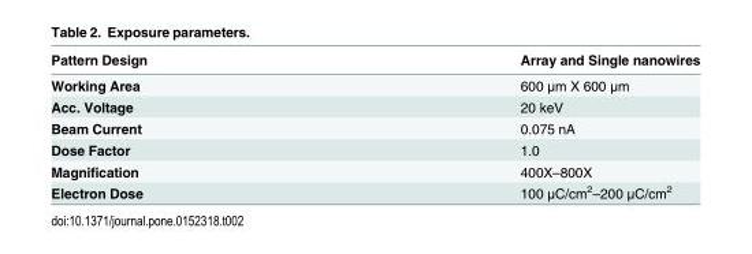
<table><thead><tr><td>Pattern Design</td><td>Array and Single nanowires</td></tr></thead><tbody><tr><td>Working Area</td><td>600 μm X 600 μm</td></tr><tr><td>Acc. Voltage</td><td>20 keV</td></tr><tr><td>Beam Current</td><td>0.075 nA</td></tr><tr><td>Dose Factor</td><td>1.0</td></tr><tr><td>Magnification</td><td>400X–800X</td></tr><tr><td>Electron Dose</td><td>100 μC/cm<sup>2</sup>–200 μC/cm<sup>2</sup></td></tr></tbody></table>